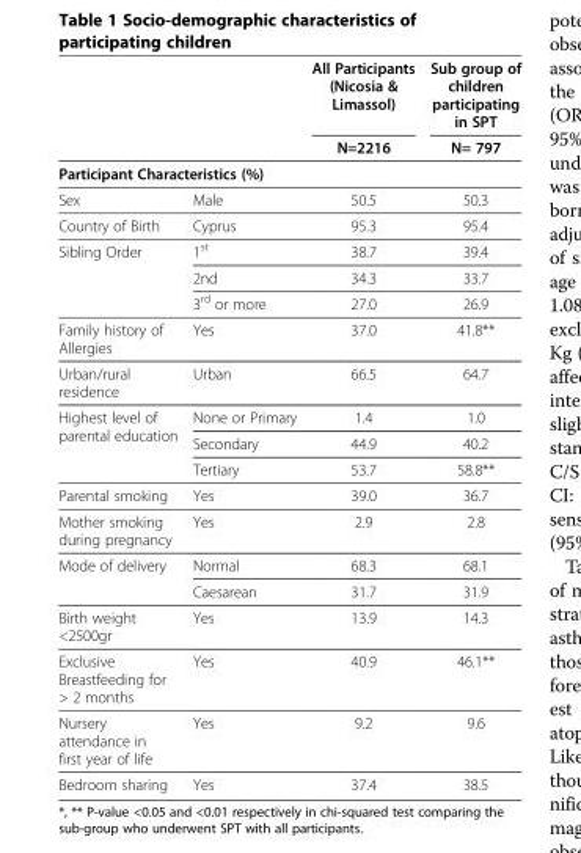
<table><thead><tr><td rowspan="2"></td><td rowspan="2"></td><td rowspan="2">All Participants (Nicosia &amp; Limassol) N=2216</td><td rowspan="2">Sub group of children participating in SPT N= 797</td></tr><tr></tr></thead><tbody><tr><td colspan="4">Participant Characteristics (%)</td></tr><tr><td>Sex</td><td>Male</td><td>50.5</td><td>50.3</td></tr><tr><td>Country of Birth</td><td>Cyprus</td><td>95.3</td><td>95.4</td></tr><tr><td rowspan="3">Sibling Order</td><td>1<sup>st</sup></td><td>38.7</td><td>39.4</td></tr><tr><td>2nd</td><td>34.3</td><td>33.7</td></tr><tr><td>3<sup>rd</sup> or more</td><td>27.0</td><td>26.9</td></tr><tr><td>Family history of Allergies</td><td>Yes</td><td>37.0</td><td>41.8**</td></tr><tr><td>Urban/rural residence</td><td>Urban</td><td>66.5</td><td>64.7</td></tr><tr><td rowspan="3">Highest level of parental education</td><td>None or Primary</td><td>1.4</td><td>1.0</td></tr><tr><td>Secondary</td><td>44.9</td><td>40.2</td></tr><tr><td>Tertiary</td><td>53.7</td><td>58.8**</td></tr><tr><td>Parental smoking</td><td>Yes</td><td>39.0</td><td>36.7</td></tr><tr><td>Mother smoking during pregnancy</td><td>Yes</td><td>2.9</td><td>2.8</td></tr><tr><td rowspan="2">Mode of delivery</td><td>Normal</td><td>68.3</td><td>68.1</td></tr><tr><td>Caesarean</td><td>31.7</td><td>31.9</td></tr><tr><td>Birth weight &lt;2500gr</td><td>Yes</td><td>13.9</td><td>14.3</td></tr><tr><td>Exclusive Breastfeeding for &gt; 2 months</td><td>Yes</td><td>40.9</td><td>46.1**</td></tr><tr><td>Nursery attendance in first year of life</td><td>Yes</td><td>9.2</td><td>9.6</td></tr><tr><td>Bedroom sharing</td><td>Yes</td><td>37.4</td><td>38.5</td></tr></tbody></table>